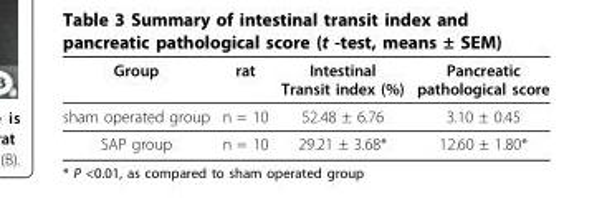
<table><thead><tr><td>Group</td><td>rat</td><td>Intestinal Transit index (%)</td><td>Pancreatic pathological score</td></tr></thead><tbody><tr><td>sham operated group</td><td>n = 10</td><td>52.48 ± 6.76</td><td>3.10 ± 0.45</td></tr><tr><td>SAP group</td><td>n = 10</td><td>29.21 ± 3.68*</td><td>12.60 ± 1.80*</td></tr></tbody></table>